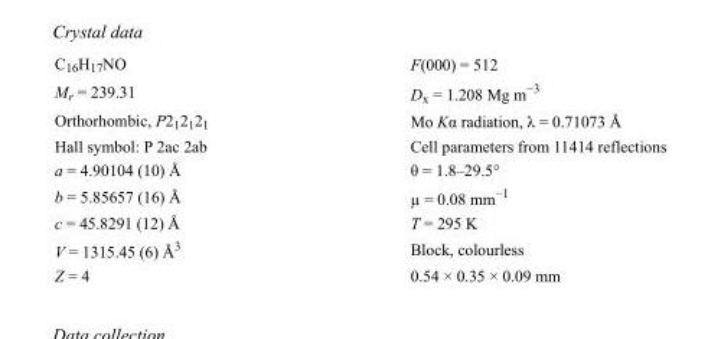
<table><tbody><tr><td>C<sub>16</sub>H<sub>17</sub>NO</td><td>F(000) = 512</td></tr><tr><td>M<sub>r</sub> = 239.31</td><td>D<sub>x</sub> = 1.208 Mg m<sup>−3</sup></td></tr><tr><td>Orthorhombic, P2<sub>1</sub>2<sub>1</sub>2<sub>1</sub></td><td>Mo Kα radiation, λ = 0.71073 Å</td></tr><tr><td>Hall symbol: P 2ac 2ab</td><td>Cell parameters from 11414 reflections</td></tr><tr><td>a = 4.90104 (10) Å</td><td>θ = 1.8–29.5°</td></tr><tr><td>b = 5.85657 (16) Å</td><td>µ = 0.08 mm<sup>−1</sup></td></tr><tr><td>c = 45.8291 (12) Å</td><td>T = 295 K</td></tr><tr><td>V = 1315.45 (6) Å<sup>3</sup></td><td>Block, colourless</td></tr><tr><td>Z = 4</td><td>0.54 × 0.35 × 0.09 mm</td></tr></tbody></table>